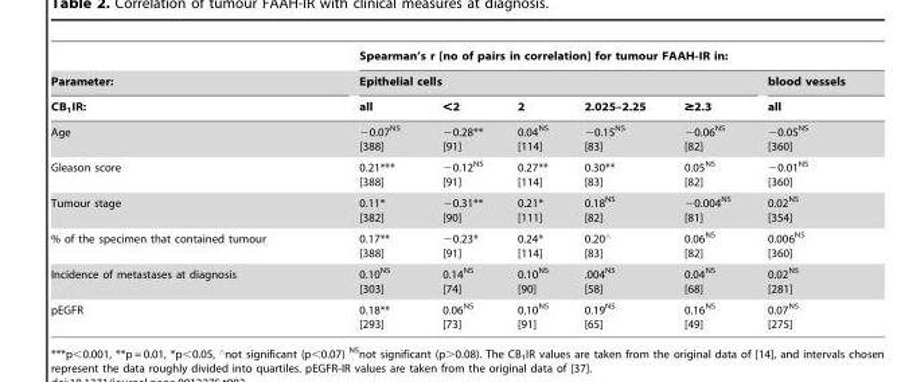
<table><thead><tr><td rowspan="3">Parameter: CB<sub>1</sub>IR:</td><td colspan="6">Spearman’s r [no of pairs in correlation] for tumour FAAH-IR in:</td></tr><tr><td colspan="5">Epithelial cells</td><td rowspan="2">blood vessels all</td></tr><tr><td>all</td><td>&lt;2</td><td>2</td><td>2.025–2.25</td><td>≥2.3</td></tr></thead><tbody><tr><td>Age</td><td>−0.07<sup>NS</sup> [388]</td><td>−0.28** [91]</td><td>0.04<sup>NS</sup> [114]</td><td>−0.15<sup>NS</sup> [83]</td><td>−0.06<sup>NS</sup> [82]</td><td>−0.05<sup>NS</sup> [360]</td></tr><tr><td>Gleason score</td><td>0.21*** [388]</td><td>−0.12<sup>NS</sup> [91]</td><td>0.27** [114]</td><td>0.30** [83]</td><td>0.05<sup>NS</sup> [82]</td><td>−0.01<sup>NS</sup> [360]</td></tr><tr><td>Tumour stage</td><td>0.11* [382]</td><td>−0.31** [90]</td><td>0.21* [111]</td><td>0.18<sup>NS</sup> [82]</td><td>−0.004<sup>NS</sup> [81]</td><td>0.02<sup>NS</sup> [354]</td></tr><tr><td>% of the specimen that contained tumour</td><td>0.17** [388]</td><td>−0.23* [91]</td><td>0.24* [114]</td><td>0.20‘ [83]</td><td>0.06<sup>NS</sup> [82]</td><td>0.006<sup>NS</sup> [360]</td></tr><tr><td>Incidence of metastases at diagnosis</td><td>0.10<sup>NS</sup> [303]</td><td>0.14<sup>NS</sup> [74]</td><td>0.10<sup>NS</sup> [90]</td><td>.004<sup>NS</sup> [58]</td><td>0.04<sup>NS</sup> [68]</td><td>0.02<sup>NS</sup> [281]</td></tr><tr><td>pEGFR</td><td>0.18** [293]</td><td>0.06<sup>NS</sup> [73]</td><td>0.10<sup>NS</sup> [91]</td><td>0.19<sup>NS</sup> [65]</td><td>0.16<sup>NS</sup> [49]</td><td>0.07<sup>NS</sup> [275]</td></tr></tbody></table>